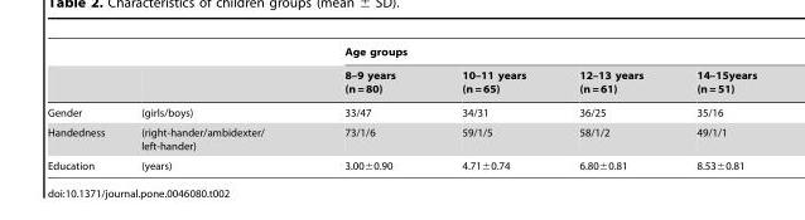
<table><thead><tr><td rowspan="2"></td><td rowspan="2"></td><td colspan="4">Age groups</td></tr><tr><td>8–9 years (n = 80)</td><td>10–11 years (n = 65)</td><td>12–13 years (n = 61)</td><td>14–15years (n = 51)</td></tr></thead><tbody><tr><td>Gender</td><td>(girls/boys)</td><td>33/47</td><td>34/31</td><td>36/25</td><td>35/16</td></tr><tr><td>Handedness</td><td>(right-hander/ambidexter/ left-hander)</td><td>73/1/6</td><td>59/1/5</td><td>58/1/2</td><td>49/1/1</td></tr><tr><td>Education</td><td>(years)</td><td>3.00±0.90</td><td>4.71±0.74</td><td>6.80±0.81</td><td>8.53±0.81</td></tr></tbody></table>